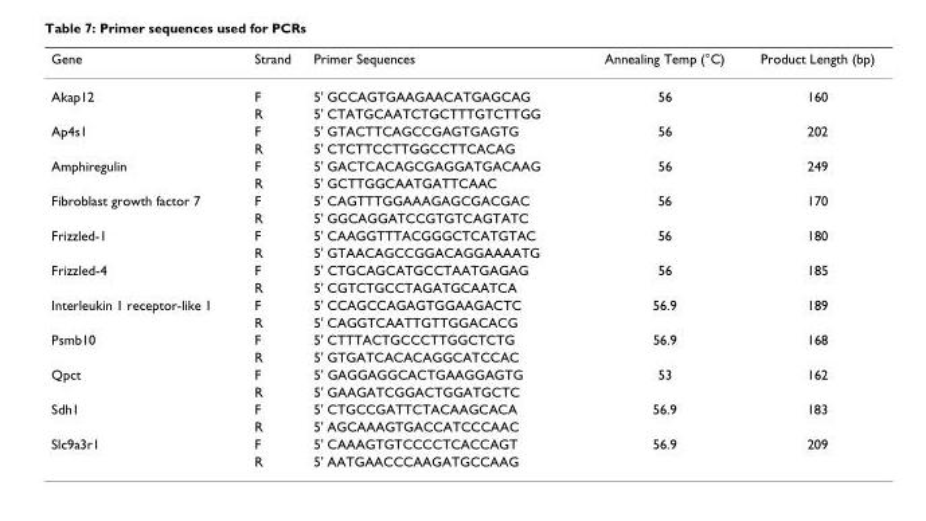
<table><thead><tr><td>Gene</td><td>Strand</td><td>Primer Sequences</td><td>Annealing Temp (°C)</td><td>Product Length (bp)</td></tr></thead><tbody><tr><td rowspan="2">Akap12</td><td>F</td><td>5&#x27; GCCAGTGAAGAACATGAGCAG</td><td>56</td><td>160</td></tr><tr><td>R</td><td>5&#x27; CTATGCAATCTGCTTTGTCTTGG</td><td></td><td></td></tr><tr><td rowspan="2">Ap4s1</td><td>F</td><td>5&#x27; GTACTTCAGCCGAGTGAGTG</td><td>56</td><td>202</td></tr><tr><td>R</td><td>5&#x27; CTCTTCCTTGGCCTTCACAG</td><td></td><td></td></tr><tr><td rowspan="2">Amphiregulin</td><td>F</td><td>5&#x27; GACTCACAGCGAGGATGACAAG</td><td>56</td><td>249</td></tr><tr><td>R</td><td>5&#x27; GCTTGGCAATGATTCAAC</td><td></td><td></td></tr><tr><td rowspan="2">Fibroblast growth factor 7</td><td>F</td><td>5&#x27; CAGTTTGGAAAGAGCGACGAC</td><td>56</td><td>170</td></tr><tr><td>R</td><td>5&#x27; GGCAGGATCCGTGTCAGTATC</td><td></td><td></td></tr><tr><td rowspan="2">Frizzled-1</td><td>F</td><td>5&#x27; CAAGGTTTACGGGCTCATGTAC</td><td>56</td><td>180</td></tr><tr><td>R</td><td>5&#x27; GTAACAGCCGGACAGGAAAATG</td><td></td><td></td></tr><tr><td rowspan="2">Frizzled-4</td><td>F</td><td>5&#x27; CTGCAGCATGCCTAATGAGAG</td><td>56</td><td>185</td></tr><tr><td>R</td><td>5&#x27; CGTCTGCCTAGATGCAATCA</td><td></td><td></td></tr><tr><td rowspan="2">Interleukin 1 receptor-like 1</td><td>F</td><td>5&#x27; CCAGCCAGAGTGGAAGACTC</td><td>56.9</td><td>189</td></tr><tr><td>R</td><td>5&#x27; CAGGTCAATTGTTGGACACG</td><td></td><td></td></tr><tr><td rowspan="2">Psmb10</td><td>F</td><td>5&#x27; CTTTACTGCCCTTGGCTCTG</td><td>56.9</td><td>168</td></tr><tr><td>R</td><td>5&#x27; GTGATCACACAGGCATCCAC</td><td></td><td></td></tr><tr><td rowspan="2">Qpct</td><td>F</td><td>5&#x27; GAGGAGGCACTGAAGGAGTG</td><td>53</td><td>162</td></tr><tr><td>R</td><td>5&#x27; GAAGATCGGACTGGATGCTC</td><td></td><td></td></tr><tr><td rowspan="2">Sdh1</td><td>F</td><td>5&#x27; CTGCCGATTCTACAAGCACA</td><td>56.9</td><td>183</td></tr><tr><td>R</td><td>5&#x27; AGCAAAGTGACCATCCCAAC</td><td></td><td></td></tr><tr><td rowspan="2">Slc9a3r1</td><td>F</td><td>5&#x27; CAAAGTGTCCCCTCACCAGT</td><td>56.9</td><td>209</td></tr><tr><td>R</td><td>5&#x27; AATGAACCCAAGATGCCAAG</td><td></td><td></td></tr></tbody></table>